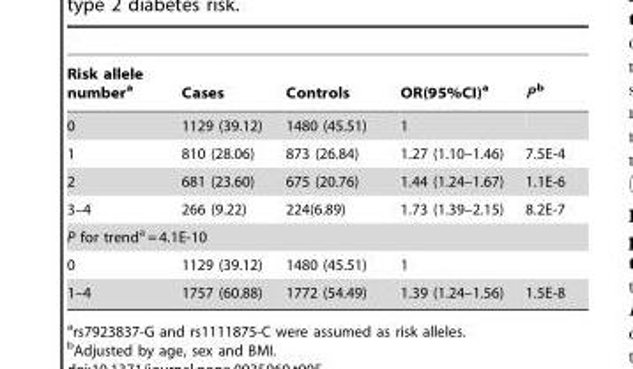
<table><thead><tr><td>Risk allele number<sup>a</sup></td><td>Cases</td><td>Controls</td><td>OR(95%CI)<sup>a</sup></td><td>P b</td></tr></thead><tbody><tr><td>0</td><td>1129 (39.12)</td><td>1480 (45.51)</td><td>1</td><td></td></tr><tr><td>1</td><td>810 (28.06)</td><td>873 (26.84)</td><td>1.27 (1.10–1.46)</td><td>7.5E-4</td></tr><tr><td>2</td><td>681 (23.60)</td><td>675 (20.76)</td><td>1.44 (1.24–1.67)</td><td>1.1E-6</td></tr><tr><td>3–4</td><td>266 (9.22)</td><td>224(6.89)</td><td>1.73 (1.39–2.15)</td><td>8.2E-7</td></tr><tr><td colspan="5">P for trend<sup>a</sup> = 4.1E-10</td></tr><tr><td>0</td><td>1129 (39.12)</td><td>1480 (45.51)</td><td>1</td><td></td></tr><tr><td>1–4</td><td>1757 (60.88)</td><td>1772 (54.49)</td><td>1.39 (1.24–1.56)</td><td>1.5E-8</td></tr></tbody></table>